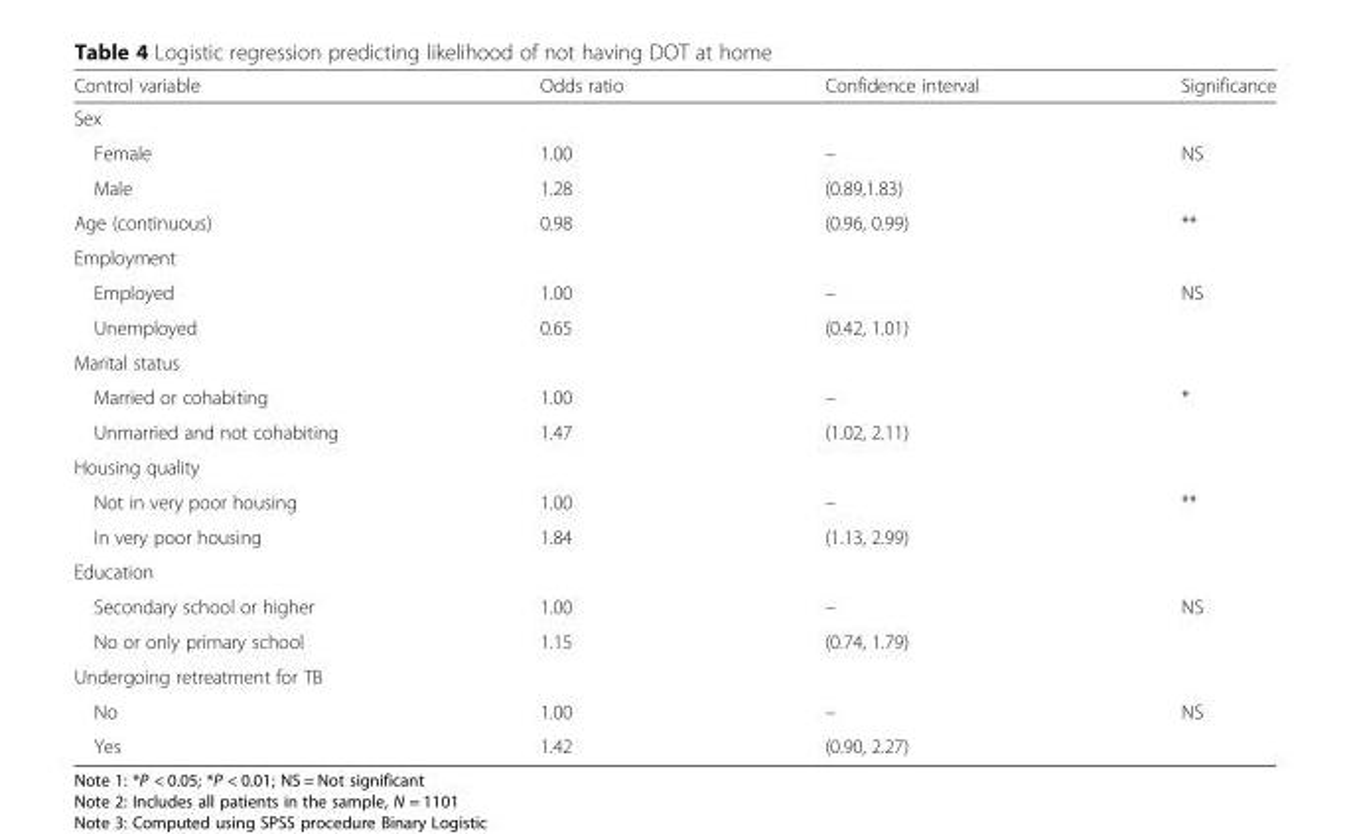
<table><thead><tr><td>Control variable</td><td>Odds ratio</td><td>Confidence interval</td><td>Significance</td></tr></thead><tbody><tr><td colspan="4">Sex</td></tr><tr><td>Female</td><td>1.00</td><td>–</td><td>NS</td></tr><tr><td>Male</td><td>1.28</td><td>(0.89,1.83)</td><td></td></tr><tr><td>Age (continuous)</td><td>0.98</td><td>(0.96, 0.99)</td><td>**</td></tr><tr><td colspan="4">Employment</td></tr><tr><td>Employed</td><td>1.00</td><td>–</td><td>NS</td></tr><tr><td>Unemployed</td><td>0.65</td><td>(0.42, 1.01)</td><td></td></tr><tr><td colspan="4">Marital status</td></tr><tr><td>Married or cohabiting</td><td>1.00</td><td>–</td><td>*</td></tr><tr><td>Unmarried and not cohabiting</td><td>1.47</td><td>(1.02, 2.11)</td><td></td></tr><tr><td colspan="4">Housing quality</td></tr><tr><td>Not in very poor housing</td><td>1.00</td><td>–</td><td>**</td></tr><tr><td>In very poor housing</td><td>1.84</td><td>(1.13, 2.99)</td><td></td></tr><tr><td colspan="4">Education</td></tr><tr><td>Secondary school or higher</td><td>1.00</td><td>–</td><td>NS</td></tr><tr><td>No or only primary school</td><td>1.15</td><td>(0.74, 1.79)</td><td></td></tr><tr><td colspan="4">Undergoing retreatment for TB</td></tr><tr><td>No</td><td>1.00</td><td>–</td><td>NS</td></tr><tr><td>Yes</td><td>1.42</td><td>(0.90, 2.27)</td><td></td></tr></tbody></table>